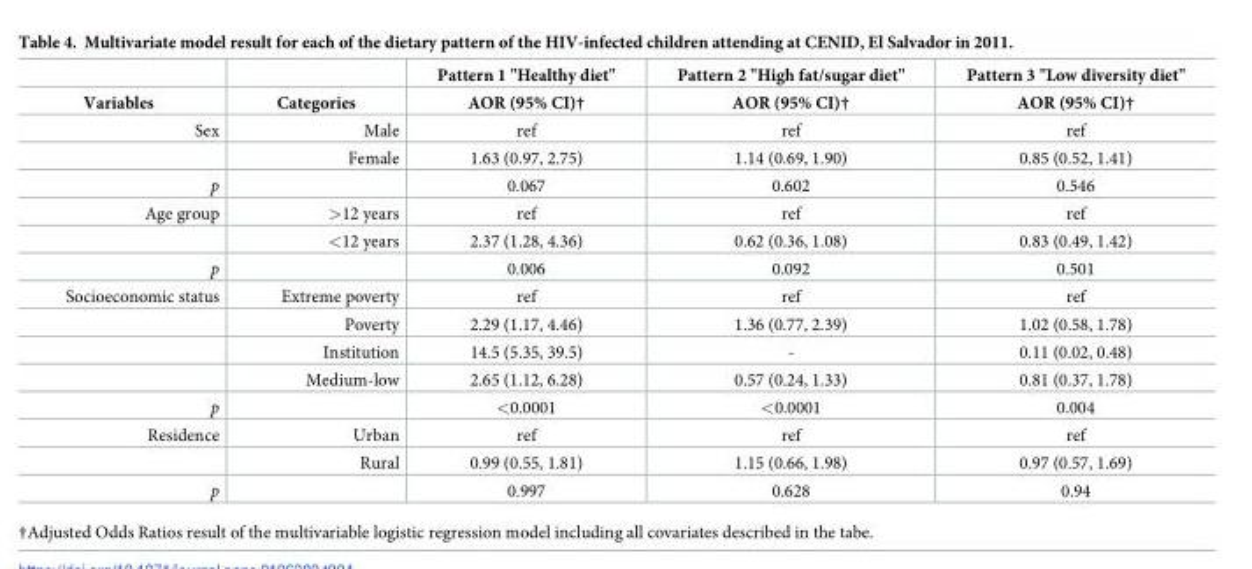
<table><thead><tr><td rowspan="2">Variables</td><td rowspan="2">Categories</td><td rowspan="2">Pattern 1 &quot;Healthy diet&quot; AOR (95% CI)†</td><td rowspan="2">Pattern 2 &quot;High fat/sugar diet&quot; AOR (95% CI)†</td><td rowspan="2">Pattern 3 &quot;Low diversity diet&quot; AOR (95% CI)†</td></tr><tr></tr></thead><tbody><tr><td rowspan="2">Sex</td><td>Male</td><td>ref</td><td>ref</td><td>ref</td></tr><tr><td>Female</td><td>1.63 (0.97, 2.75)</td><td>1.14 (0.69, 1.90)</td><td>0.85 (0.52, 1.41)</td></tr><tr><td>p</td><td></td><td>0.067</td><td>0.602</td><td>0.546</td></tr><tr><td rowspan="2">Age group</td><td>&gt;12 years</td><td>ref</td><td>ref</td><td>ref</td></tr><tr><td>&lt;12 years</td><td>2.37 (1.28, 4.36)</td><td>0.62 (0.36, 1.08)</td><td>0.83 (0.49, 1.42)</td></tr><tr><td>p</td><td></td><td>0.006</td><td>0.092</td><td>0.501</td></tr><tr><td rowspan="4">Socioeconomic status</td><td>Extreme poverty</td><td>ref</td><td>ref</td><td>ref</td></tr><tr><td>Poverty</td><td>2.29 (1.17, 4.46)</td><td>1.36 (0.77, 2.39)</td><td>1.02 (0.58, 1.78)</td></tr><tr><td>Institution</td><td>14.5 (5.35, 39.5)</td><td>-</td><td>0.11 (0.02, 0.48)</td></tr><tr><td>Medium-low</td><td>2.65 (1.12, 6.28)</td><td>0.57 (0.24, 1.33)</td><td>0.81 (0.37, 1.78)</td></tr><tr><td>p</td><td></td><td>&lt;0.0001</td><td>&lt;0.0001</td><td>0.004</td></tr><tr><td rowspan="2">Residence</td><td>Urban</td><td>ref</td><td>ref</td><td>ref</td></tr><tr><td>Rural</td><td>0.99 (0.55, 1.81)</td><td>1.15 (0.66, 1.98)</td><td>0.97 (0.57, 1.69)</td></tr><tr><td>p</td><td></td><td>0.997</td><td>0.628</td><td>0.94</td></tr></tbody></table>